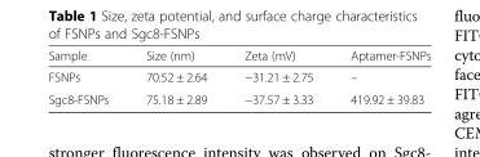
<table><thead><tr><td>Sample</td><td>Size (nm)</td><td>Zeta (mV)</td><td>Aptamer-FSNPs</td></tr></thead><tbody><tr><td>FSNPs</td><td>70.52 ± 2.64</td><td>−31.21 ± 2.75</td><td>–</td></tr><tr><td>Sgc8-FSNPs</td><td>75.18 ± 2.89</td><td>−37.57 ± 3.33</td><td>419.92 ± 39.83</td></tr></tbody></table>